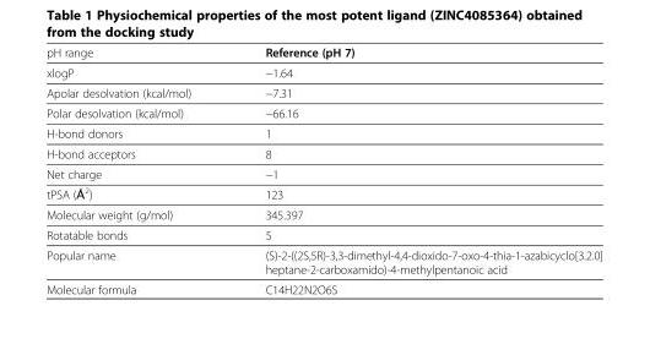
<table><thead><tr><td>pH range</td><td>Reference (pH 7)</td></tr></thead><tbody><tr><td>xlogP</td><td>−1.64</td></tr><tr><td>Apolar desolvation (kcal/mol)</td><td>−7.31</td></tr><tr><td>Polar desolvation (kcal/mol)</td><td>−66.16</td></tr><tr><td>H-bond donors</td><td>1</td></tr><tr><td>H-bond acceptors</td><td>8</td></tr><tr><td>Net charge</td><td>−1</td></tr><tr><td>tPSA (Å<sup>2</sup>)</td><td>123</td></tr><tr><td>Molecular weight (g/mol)</td><td>345.397</td></tr><tr><td>Rotatable bonds</td><td>5</td></tr><tr><td>Popular name</td><td>(S)-2-((2S,5R)-3,3-dimethyl-4,4-dioxido-7-oxo-4-thia-1-azabicyclo[3.2.0] heptane-2-carboxamido)-4-methylpentanoic acid</td></tr><tr><td>Molecular formula</td><td>C14H22N2O6S</td></tr></tbody></table>